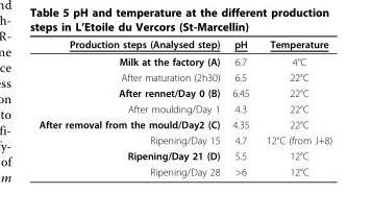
<table><thead><tr><td>Production steps (Analysed step)</td><td>pH</td><td>Temperature</td></tr></thead><tbody><tr><td>Milk at the factory (A)</td><td>6.7</td><td>4°C</td></tr><tr><td>After maturation (2h30)</td><td>6.5</td><td>22°C</td></tr><tr><td>After rennet/Day 0 (B)</td><td>6.45</td><td>22°C</td></tr><tr><td>After moulding/Day 1</td><td>4.3</td><td>22°C</td></tr><tr><td>After removal from the mould/Day2 (C)</td><td>4.35</td><td>22°C</td></tr><tr><td>Ripening/Day 15</td><td>4.7</td><td>12°C (from J+8)</td></tr><tr><td>Ripening/Day 21 (D)</td><td>5.5</td><td>12°C</td></tr><tr><td>Ripening/Day 28</td><td>&gt;6</td><td>12°C</td></tr></tbody></table>